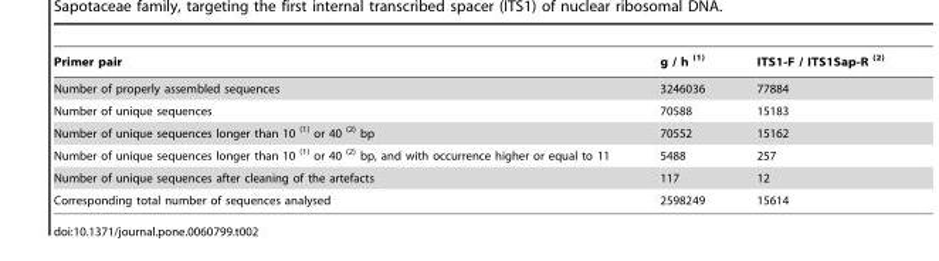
<table><thead><tr><td>Primer pair</td><td>g / h <sup>(1)</sup></td><td>ITS1-F / ITS1Sap-R <sup>(2)</sup></td></tr></thead><tbody><tr><td>Number of properly assembled sequences</td><td>3246036</td><td>77884</td></tr><tr><td>Number of unique sequences</td><td>70588</td><td>15183</td></tr><tr><td>Number of unique sequences longer than 10 <sup>(1)</sup> or 40 <sup>(2)</sup> bp</td><td>70552</td><td>15162</td></tr><tr><td>Number of unique sequences longer than 10 <sup>(1)</sup> or 40 <sup>(2)</sup> bp, and with occurrence higher or equal to 11</td><td>5488</td><td>257</td></tr><tr><td>Number of unique sequences after cleaning of the artefacts</td><td>117</td><td>12</td></tr><tr><td>Corresponding total number of sequences analysed</td><td>2598249</td><td>15614</td></tr></tbody></table>